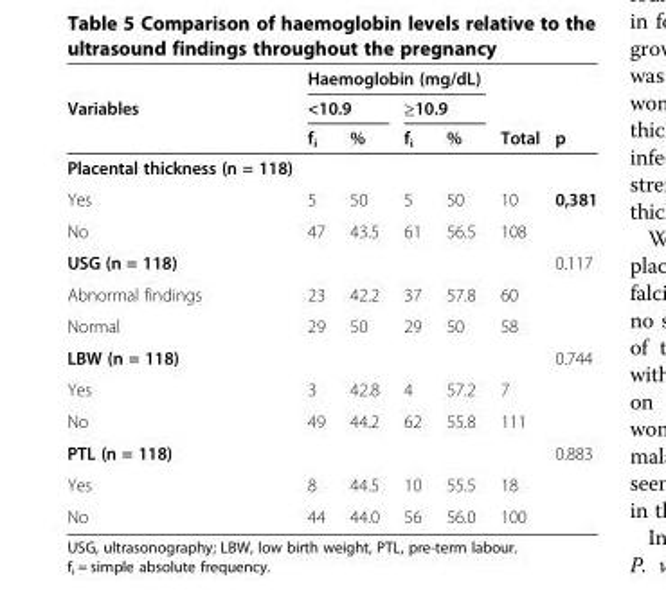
<table><thead><tr><td rowspan="3">Variables</td><td colspan="4">Haemoglobin (mg/dL)</td><td rowspan="3">Total</td><td rowspan="3">p</td></tr><tr><td colspan="2">&lt;10.9</td><td colspan="2">≥10.9</td></tr><tr><td>f<sub>i</sub></td><td>%</td><td>f<sub>i</sub></td><td>%</td></tr></thead><tbody><tr><td colspan="7">Placental thickness (n = 118)</td></tr><tr><td>Yes</td><td>5</td><td>50</td><td>5</td><td>50</td><td>10</td><td>0,381</td></tr><tr><td>No</td><td>47</td><td>43.5</td><td>61</td><td>56.5</td><td>108</td><td></td></tr><tr><td>USG (n = 118)</td><td></td><td></td><td></td><td></td><td></td><td>0.117</td></tr><tr><td>Abnormal findings</td><td>23</td><td>42.2</td><td>37</td><td>57.8</td><td>60</td><td></td></tr><tr><td>Normal</td><td>29</td><td>50</td><td>29</td><td>50</td><td>58</td><td></td></tr><tr><td>LBW (n = 118)</td><td></td><td></td><td></td><td></td><td></td><td>0.744</td></tr><tr><td>Yes</td><td>3</td><td>42.8</td><td>4</td><td>57.2</td><td>7</td><td></td></tr><tr><td>No</td><td>49</td><td>44.2</td><td>62</td><td>55.8</td><td>111</td><td></td></tr><tr><td>PTL (n = 118)</td><td></td><td></td><td></td><td></td><td></td><td>0.883</td></tr><tr><td>Yes</td><td>8</td><td>44.5</td><td>10</td><td>55.5</td><td>18</td><td></td></tr><tr><td>No</td><td>44</td><td>44.0</td><td>56</td><td>56.0</td><td>100</td><td></td></tr></tbody></table>